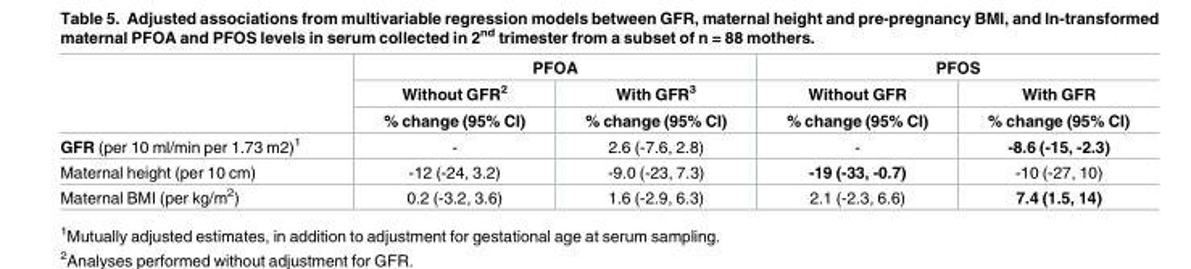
<table><thead><tr><td rowspan="3"></td><td colspan="2">PFOA</td><td colspan="2">PFOS</td></tr><tr><td rowspan="2">Without GFR<sup>2</sup> % change (95% CI)</td><td rowspan="2">With GFR<sup>3</sup> % change (95% CI)</td><td rowspan="2">Without GFR % change (95% CI)</td><td rowspan="2">With GFR % change (95% CI)</td></tr><tr></tr></thead><tbody><tr><td>GFR (per 10 ml/min per 1.73 m2)<sup>1</sup></td><td>-</td><td>2.6 (-7.6, 2.8)</td><td>-</td><td>-8.6 (-15, -2.3)</td></tr><tr><td>Maternal height (per 10 cm)</td><td>-12 (-24, 3.2)</td><td>-9.0 (-23, 7.3)</td><td>-19 (-33, -0.7)</td><td>-10 (-27, 10)</td></tr><tr><td>Maternal BMI (per kg/m<sup>2</sup>)</td><td>0.2 (-3.2, 3.6)</td><td>1.6 (-2.9, 6.3)</td><td>2.1 (-2.3, 6.6)</td><td>7.4 (1.5, 14)</td></tr></tbody></table>